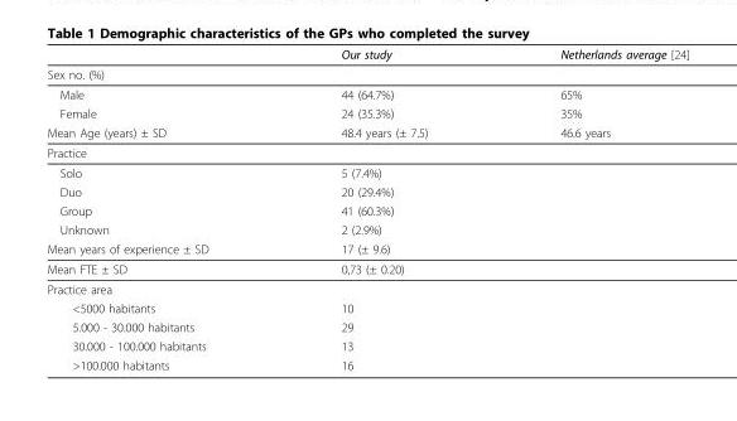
<table><thead><tr><td></td><td>Our study</td><td>Netherlands average [24]</td></tr></thead><tbody><tr><td colspan="3">Sex no. (%)</td></tr><tr><td>Male</td><td>44 (64.7%)</td><td>65%</td></tr><tr><td>Female</td><td>24 (35.3%)</td><td>35%</td></tr><tr><td>Mean Age (years) ± SD</td><td>48.4 years (± 7.5)</td><td>46.6 years</td></tr><tr><td colspan="3">Practice</td></tr><tr><td>Solo</td><td>5 (7.4%)</td><td></td></tr><tr><td>Duo</td><td>20 (29.4%)</td><td></td></tr><tr><td>Group</td><td>41 (60.3%)</td><td></td></tr><tr><td>Unknown</td><td>2 (2.9%)</td><td></td></tr><tr><td>Mean years of experience ± SD</td><td>17 (± 9.6)</td><td></td></tr><tr><td>Mean FTE ± SD</td><td>0,73 (± 0.20)</td><td></td></tr><tr><td colspan="3">Practice area</td></tr><tr><td>&lt;5000 habitants</td><td>10</td><td></td></tr><tr><td>5.000 - 30.000 habitants</td><td>29</td><td></td></tr><tr><td>30.000 - 100.000 habitants</td><td>13</td><td></td></tr><tr><td>&gt;100.000 habitants</td><td>16</td><td></td></tr></tbody></table>